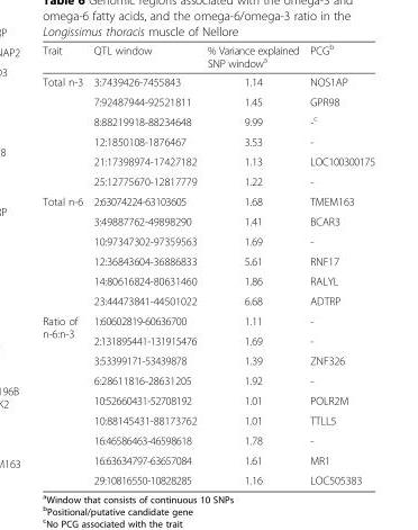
<table><thead><tr><td>Trait</td><td>QTL window</td><td>% Variance explained SNP window<sup>a</sup></td><td>PCG<sup>b</sup></td></tr></thead><tbody><tr><td rowspan="6">Total n-3</td><td>3:7439426-7455843</td><td>1.14</td><td>NOS1AP</td></tr><tr><td>7:92487944-92521811</td><td>1.45</td><td>GPR98</td></tr><tr><td>8:88219918-88234648</td><td>9.99</td><td>-<sup>c</sup></td></tr><tr><td>12:1850108-1876467</td><td>3.53</td><td>-</td></tr><tr><td>21:17398974-17427182</td><td>1.13</td><td>LOC100300175</td></tr><tr><td>25:12775670-12817779</td><td>1.22</td><td>-</td></tr><tr><td rowspan="6">Total n-6</td><td>2:63074224-63103605</td><td>1.68</td><td>TMEM163</td></tr><tr><td>3:49887762-49898290</td><td>1.41</td><td>BCAR3</td></tr><tr><td>10:97347302-97359563</td><td>1.69</td><td>-</td></tr><tr><td>12:36843604-36886833</td><td>5.61</td><td>RNF17</td></tr><tr><td>14:80616824-80631460</td><td>1.86</td><td>RALYL</td></tr><tr><td>23:44473841-44501022</td><td>6.68</td><td>ADTRP</td></tr><tr><td rowspan="9">Ratio of n-6:n-3</td><td>1:60602819-60636700</td><td>1.11</td><td>-</td></tr><tr><td>2:131895441-131915476</td><td>1.69</td><td>-</td></tr><tr><td>3:53399171-53439878</td><td>1.39</td><td>ZNF326</td></tr><tr><td>6:28611816-28631205</td><td>1.92</td><td>-</td></tr><tr><td>10:52660431-52708192</td><td>1.01</td><td>POLR2M</td></tr><tr><td>10:88145431-88173762</td><td>1.01</td><td>TTLL5</td></tr><tr><td>16:46586463-46598618</td><td>1.78</td><td>-</td></tr><tr><td>16:63634797-63657084</td><td>1.61</td><td>MR1</td></tr><tr><td>29:10816550-10828285</td><td>1.16</td><td>LOC505383</td></tr></tbody></table>